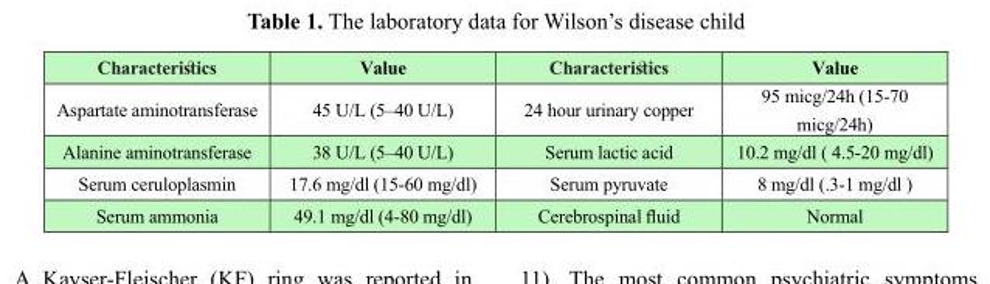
<table><thead><tr><td>Characteristics</td><td>Value</td><td>Characteristics</td><td>Value</td></tr></thead><tbody><tr><td>Aspartate aminotransferase</td><td>45 U/L (5–40 U/L)</td><td>24 hour urinary copper</td><td>95 micg/24h (15-70 micg/24h)</td></tr><tr><td>Alanine aminotransferase</td><td>38 U/L (5–40 U/L)</td><td>Serum lactic acid</td><td>10.2 mg/dl ( 4.5-20 mg/dl)</td></tr><tr><td>Serum ceruloplasmin</td><td>17.6 mg/dl (15-60 mg/dl)</td><td>Serum pyruvate</td><td>8 mg/dl (.3-1 mg/dl )</td></tr><tr><td>Serum ammonia</td><td>49.1 mg/dl (4-80 mg/dl)</td><td>Cerebrospinal fluid</td><td>Normal</td></tr></tbody></table>